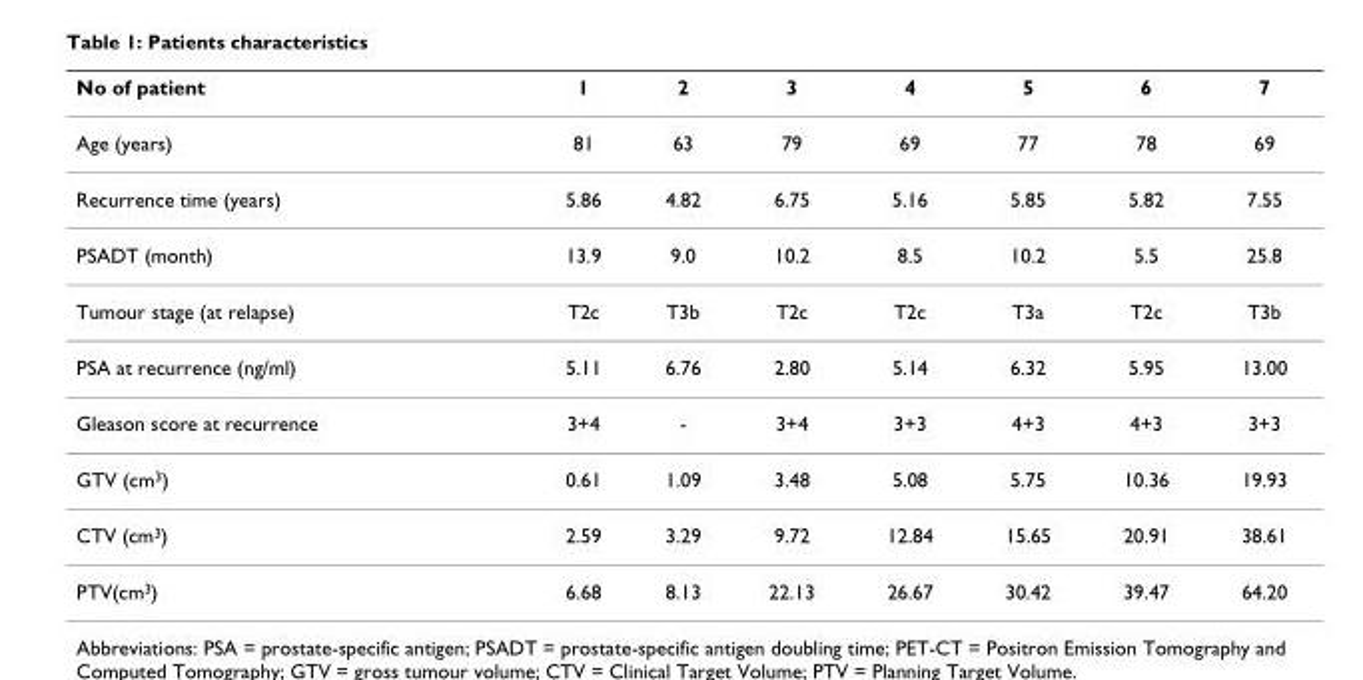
<table><thead><tr><td>No of patient</td><td>1</td><td>2</td><td>3</td><td>4</td><td>5</td><td>6</td><td>7</td></tr></thead><tbody><tr><td>Age (years)</td><td>81</td><td>63</td><td>79</td><td>69</td><td>77</td><td>78</td><td>69</td></tr><tr><td>Recurrence time (years)</td><td>5.86</td><td>4.82</td><td>6.75</td><td>5.16</td><td>5.85</td><td>5.82</td><td>7.55</td></tr><tr><td>PSADT (month)</td><td>13.9</td><td>9.0</td><td>10.2</td><td>8.5</td><td>10.2</td><td>5.5</td><td>25.8</td></tr><tr><td>Tumour stage (at relapse)</td><td>T2c</td><td>T3b</td><td>T2c</td><td>T2c</td><td>T3a</td><td>T2c</td><td>T3b</td></tr><tr><td>PSA at recurrence (ng/ml)</td><td>5.11</td><td>6.76</td><td>2.80</td><td>5.14</td><td>6.32</td><td>5.95</td><td>13.00</td></tr><tr><td>Gleason score at recurrence</td><td>3+4</td><td>-</td><td>3+4</td><td>3+3</td><td>4+3</td><td>4+3</td><td>3+3</td></tr><tr><td>GTV (cm<sup>3</sup>)</td><td>0.61</td><td>1.09</td><td>3.48</td><td>5.08</td><td>5.75</td><td>10.36</td><td>19.93</td></tr><tr><td>CTV (cm<sup>3</sup>)</td><td>2.59</td><td>3.29</td><td>9.72</td><td>12.84</td><td>15.65</td><td>20.91</td><td>38.61</td></tr><tr><td>PTV(cm<sup>3</sup>)</td><td>6.68</td><td>8.13</td><td>22.13</td><td>26.67</td><td>30.42</td><td>39.47</td><td>64.20</td></tr></tbody></table>